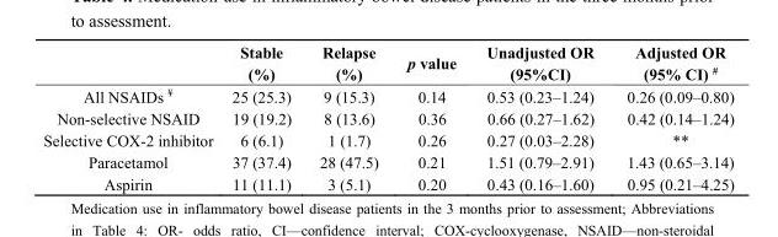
<table><thead><tr><td></td><td>Stable (%)</td><td>Relapse (%)</td><td>p value</td><td>Unadjusted OR (95%CI)</td><td>Adjusted OR (95% CI) <sup>#</sup></td></tr></thead><tbody><tr><td>All NSAIDs <sup>¥</sup></td><td>25 (25.3)</td><td>9 (15.3)</td><td>0.14</td><td>0.53 (0.23–1.24)</td><td>0.26 (0.09–0.80)</td></tr><tr><td>Non-selective NSAID</td><td>19 (19.2)</td><td>8 (13.6)</td><td>0.36</td><td>0.66 (0.27–1.62)</td><td>0.42 (0.14–1.24)</td></tr><tr><td>Selective COX-2 inhibitor</td><td>6 (6.1)</td><td>1 (1.7)</td><td>0.26</td><td>0.27 (0.03–2.28)</td><td>**</td></tr><tr><td>Paracetamol</td><td>37 (37.4)</td><td>28 (47.5)</td><td>0.21</td><td>1.51 (0.79–2.91)</td><td>1.43 (0.65–3.14)</td></tr><tr><td>Aspirin</td><td>11 (11.1)</td><td>3 (5.1)</td><td>0.20</td><td>0.43 (0.16–1.60)</td><td>0.95 (0.21–4.25)</td></tr></tbody></table>